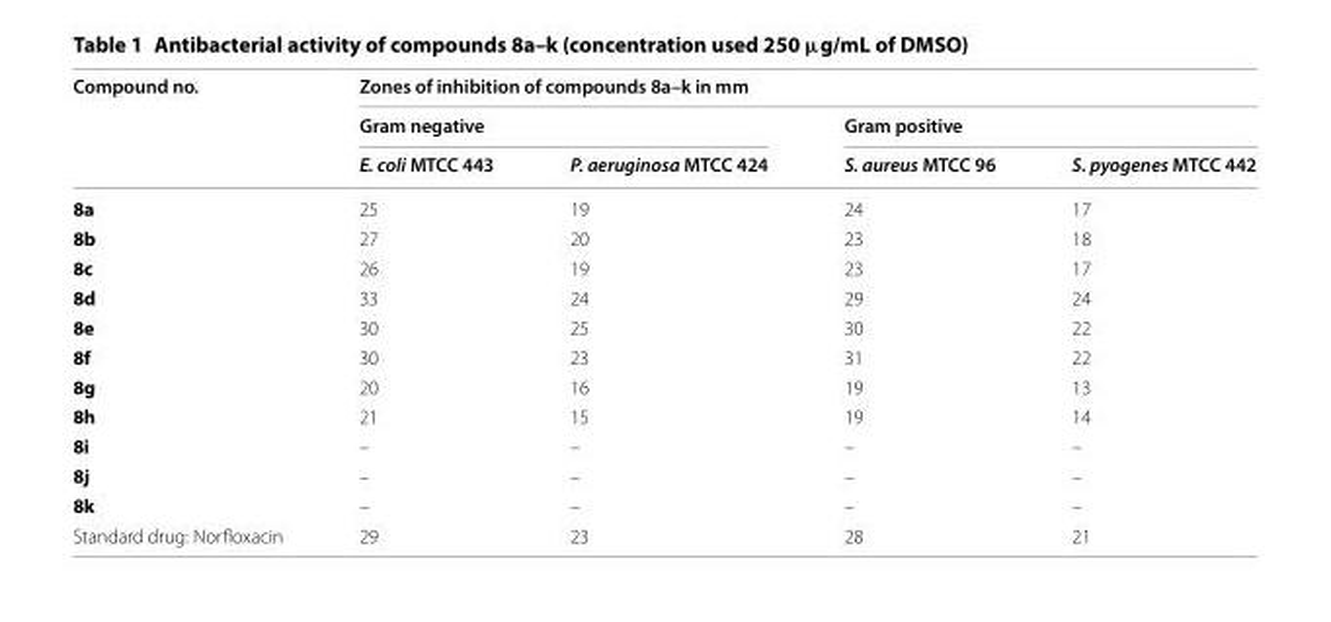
<table><thead><tr><td rowspan="3">Compound no.</td><td colspan="4">Zones of inhibition of compounds 8a–k in mm</td></tr><tr><td colspan="2">Gram negative</td><td colspan="2">Gram positive</td></tr><tr><td>E. coli MTCC 443</td><td>P. aeruginosa MTCC 424</td><td>S. aureus MTCC 96</td><td>S. pyogenes MTCC 442</td></tr></thead><tbody><tr><td>8a</td><td>25</td><td>19</td><td>24</td><td>17</td></tr><tr><td>8b</td><td>27</td><td>20</td><td>23</td><td>18</td></tr><tr><td>8c</td><td>26</td><td>19</td><td>23</td><td>17</td></tr><tr><td>8d</td><td>33</td><td>24</td><td>29</td><td>24</td></tr><tr><td>8e</td><td>30</td><td>25</td><td>30</td><td>22</td></tr><tr><td>8f</td><td>30</td><td>23</td><td>31</td><td>22</td></tr><tr><td>8g</td><td>20</td><td>16</td><td>19</td><td>13</td></tr><tr><td>8h</td><td>21</td><td>15</td><td>19</td><td>14</td></tr><tr><td>8i</td><td>–</td><td>–</td><td>–</td><td>–</td></tr><tr><td>8j</td><td>–</td><td>–</td><td>–</td><td>–</td></tr><tr><td>8k</td><td>–</td><td>–</td><td>–</td><td>–</td></tr><tr><td>Standard drug: Norfloxacin</td><td>29</td><td>23</td><td>28</td><td>21</td></tr></tbody></table>